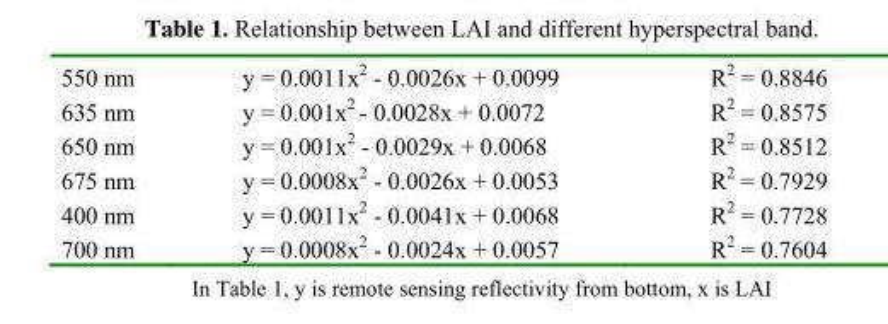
<table><tbody><tr><td>550 nm</td><td>y = 0.0011x<sup>2</sup> - 0.0026x + 0.0099</td><td>R<sup>2</sup> = 0.8846</td></tr><tr><td>635 nm</td><td>y = 0.001x<sup>2</sup> - 0.0028x + 0.0072</td><td>R<sup>2</sup> = 0.8575</td></tr><tr><td>650 nm</td><td>y = 0.001x<sup>2</sup> - 0.0029x + 0.0068</td><td>R<sup>2</sup> = 0.8512</td></tr><tr><td>675 nm</td><td>y = 0.0008x<sup>2</sup> - 0.0026x + 0.0053</td><td>R<sup>2</sup> = 0.7929</td></tr><tr><td>400 nm</td><td>y = 0.0011x<sup>2</sup> - 0.0041x + 0.0068</td><td>R<sup>2</sup> = 0.7728</td></tr><tr><td>700 nm</td><td>y = 0.0008x<sup>2</sup> - 0.0024x + 0.0057</td><td>R<sup>2</sup> = 0.7604</td></tr></tbody></table>